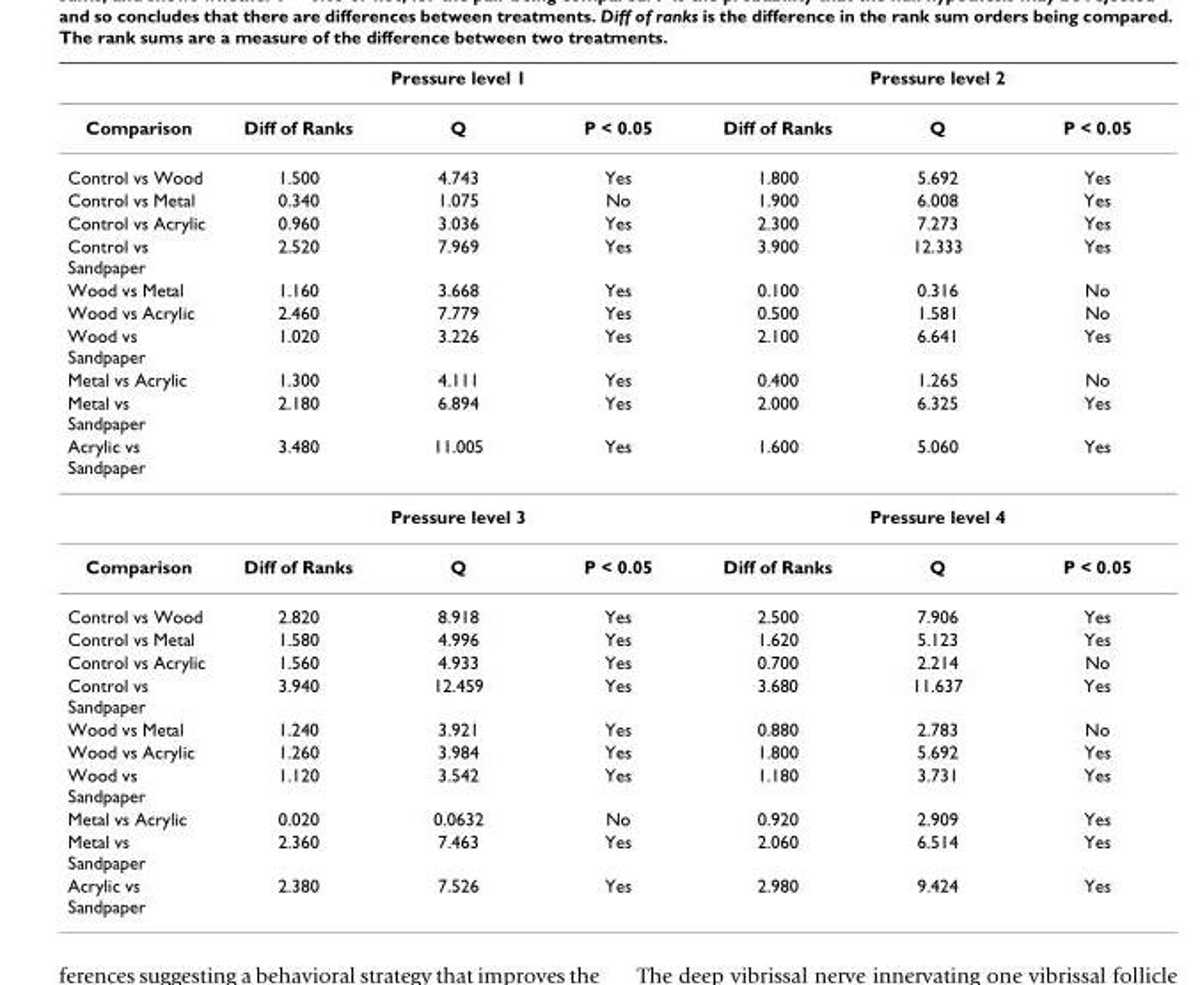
<table><thead><tr><td rowspan="2">Comparison</td><td colspan="3">Pressure level 1</td><td colspan="3">Pressure level 2</td></tr><tr><td>Diff of Ranks</td><td>Q</td><td>P &lt; 0.05</td><td>Diff of Ranks</td><td>Q</td><td>P &lt; 0.05</td></tr></thead><tbody><tr><td>Control vs Wood</td><td>1.500</td><td>4.743</td><td>Yes</td><td>1.800</td><td>5.692</td><td>Yes</td></tr><tr><td>Control vs Metal</td><td>0.340</td><td>1.075</td><td>No</td><td>1.900</td><td>6.008</td><td>Yes</td></tr><tr><td>Control vs Acrylic</td><td>0.960</td><td>3.036</td><td>Yes</td><td>2.300</td><td>7.273</td><td>Yes</td></tr><tr><td>Control vs Sandpaper</td><td>2.520</td><td>7.969</td><td>Yes</td><td>3.900</td><td>12.333</td><td>Yes</td></tr><tr><td>Wood vs Metal</td><td>1.160</td><td>3.668</td><td>Yes</td><td>0.100</td><td>0.316</td><td>No</td></tr><tr><td>Wood vs Acrylic</td><td>2.460</td><td>7.779</td><td>Yes</td><td>0.500</td><td>1.581</td><td>No</td></tr><tr><td>Wood vs Sandpaper</td><td>1.020</td><td>3.226</td><td>Yes</td><td>2.100</td><td>6.641</td><td>Yes</td></tr><tr><td>Metal vs Acrylic</td><td>1.300</td><td>4.111</td><td>Yes</td><td>0.400</td><td>1.265</td><td>No</td></tr><tr><td>Metal vs Sandpaper</td><td>2.180</td><td>6.894</td><td>Yes</td><td>2.000</td><td>6.325</td><td>Yes</td></tr><tr><td rowspan="2">Acrylic vs Sandpaper</td><td>3.480</td><td>11.005</td><td>Yes</td><td>1.600</td><td>5.060</td><td>Yes</td></tr><tr><td colspan="3">Pressure level 3</td><td colspan="3">Pressure level 4</td></tr><tr><td>Comparison</td><td>Diff of Ranks</td><td>Q</td><td>P &lt; 0.05</td><td>Diff of Ranks</td><td>Q</td><td>P &lt; 0.05</td></tr><tr><td>Control vs Wood</td><td>2.820</td><td>8.918</td><td>Yes</td><td>2.500</td><td>7.906</td><td>Yes</td></tr><tr><td>Control vs Metal</td><td>1.580</td><td>4.996</td><td>Yes</td><td>1.620</td><td>5.123</td><td>Yes</td></tr><tr><td>Control vs Acrylic</td><td>1.560</td><td>4.933</td><td>Yes</td><td>0.700</td><td>2.214</td><td>No</td></tr><tr><td>Control vs Sandpaper</td><td>3.940</td><td>12.459</td><td>Yes</td><td>3.680</td><td>11.637</td><td>Yes</td></tr><tr><td>Wood vs Metal</td><td>1.240</td><td>3.921</td><td>Yes</td><td>0.880</td><td>2.783</td><td>No</td></tr><tr><td>Wood vs Acrylic</td><td>1.260</td><td>3.984</td><td>Yes</td><td>1.800</td><td>5.692</td><td>Yes</td></tr><tr><td>Wood vs Sandpaper</td><td>1.120</td><td>3.542</td><td>Yes</td><td>1.180</td><td>3.731</td><td>Yes</td></tr><tr><td>Metal vs Acrylic</td><td>0.020</td><td>0.0632</td><td>No</td><td>0.920</td><td>2.909</td><td>Yes</td></tr><tr><td>Metal vs Sandpaper</td><td>2.360</td><td>7.463</td><td>Yes</td><td>2.060</td><td>6.514</td><td>Yes</td></tr><tr><td>Acrylic vs Sandpaper</td><td>2.380</td><td>7.526</td><td>Yes</td><td>2.980</td><td>9.424</td><td>Yes</td></tr></tbody></table>